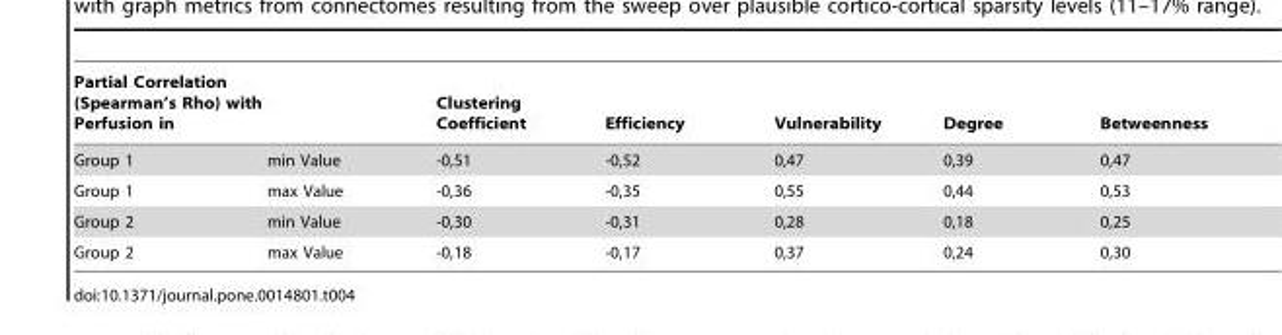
<table><thead><tr><td>Partial Correlation (Spearman’s Rho) with Perfusion in</td><td></td><td>Clustering Coefficient</td><td>Efficiency</td><td>Vulnerability</td><td>Degree</td><td>Betweenness</td></tr></thead><tbody><tr><td>Group 1</td><td>min Value</td><td>-0,51</td><td>-0,52</td><td>0,47</td><td>0,39</td><td>0,47</td></tr><tr><td>Group 1</td><td>max Value</td><td>-0,36</td><td>-0,35</td><td>0,55</td><td>0,44</td><td>0,53</td></tr><tr><td>Group 2</td><td>min Value</td><td>-0,30</td><td>-0,31</td><td>0,28</td><td>0,18</td><td>0,25</td></tr><tr><td>Group 2</td><td>max Value</td><td>-0,18</td><td>-0,17</td><td>0,37</td><td>0,24</td><td>0,30</td></tr></tbody></table>